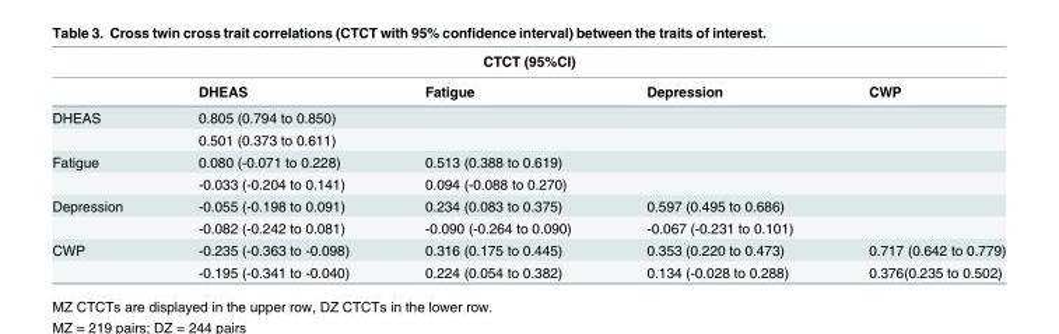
<table><thead><tr><td colspan="5">CTCT (95%CI)</td></tr><tr><td></td><td>DHEAS</td><td>Fatigue</td><td>Depression</td><td>CWP</td></tr></thead><tbody><tr><td rowspan="2">DHEAS</td><td>0.805 (0.794 to 0.850)</td><td></td><td></td><td></td></tr><tr><td>0.501 (0.373 to 0.611)</td><td></td><td></td><td></td></tr><tr><td rowspan="2">Fatigue</td><td>0.080 (-0.071 to 0.228)</td><td>0.513 (0.388 to 0.619)</td><td></td><td></td></tr><tr><td>-0.033 (-0.204 to 0.141)</td><td>0.094 (-0.088 to 0.270)</td><td></td><td></td></tr><tr><td rowspan="2">Depression</td><td>-0.055 (-0.198 to 0.091)</td><td>0.234 (0.083 to 0.375)</td><td>0.597 (0.495 to 0.686)</td><td></td></tr><tr><td>-0.082 (-0.242 to 0.081)</td><td>-0.090 (-0.264 to 0.090)</td><td>-0.067 (-0.231 to 0.101)</td><td></td></tr><tr><td rowspan="2">CWP</td><td>-0.235 (-0.363 to -0.098)</td><td>0.316 (0.175 to 0.445)</td><td>0.353 (0.220 to 0.473)</td><td>0.717 (0.642 to 0.779)</td></tr><tr><td>-0.195 (-0.341 to -0.040)</td><td>0.224 (0.054 to 0.382)</td><td>0.134 (-0.028 to 0.288)</td><td>0.376(0.235 to 0.502)</td></tr></tbody></table>